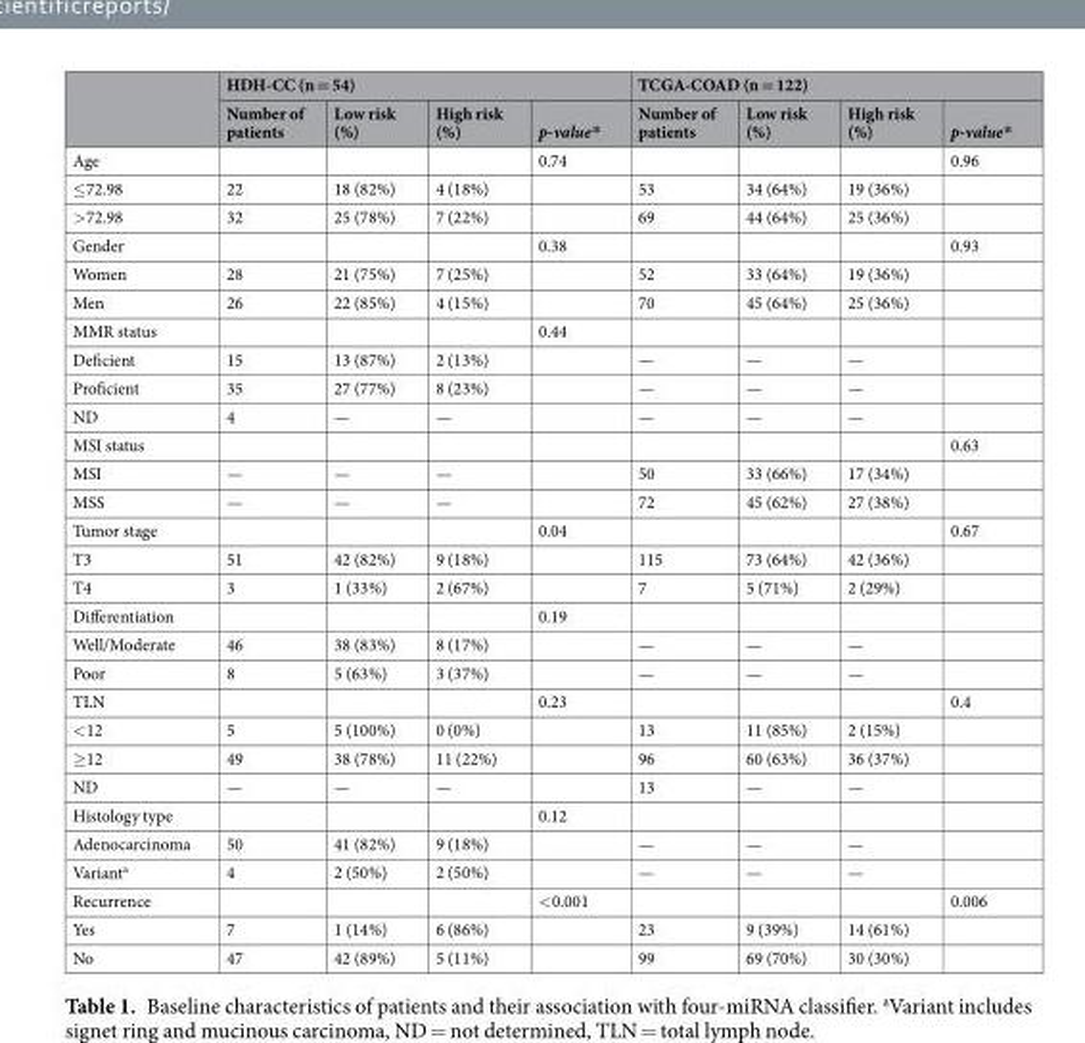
<table><thead><tr><td rowspan="2"></td><td colspan="4">HDH-CC (n = 54)</td><td colspan="4">TCGA-COAD (n = 122)</td></tr><tr><td>Number of patients</td><td>Low risk (%)</td><td>High risk (%)</td><td>p-value*</td><td>Number of patients</td><td>Low risk (%)</td><td>High risk (%)</td><td>p-value*</td></tr></thead><tbody><tr><td>Age</td><td></td><td></td><td></td><td>0.74</td><td></td><td></td><td></td><td>0.96</td></tr><tr><td>≤72.98</td><td>22</td><td>18 (82%)</td><td>4 (18%)</td><td></td><td>53</td><td>34 (64%)</td><td>19 (36%)</td><td></td></tr><tr><td>&gt;72.98</td><td>32</td><td>25 (78%)</td><td>7 (22%)</td><td></td><td>69</td><td>44 (64%)</td><td>25 (36%)</td><td></td></tr><tr><td>Gender</td><td></td><td></td><td></td><td>0.38</td><td></td><td></td><td></td><td>0.93</td></tr><tr><td>Women</td><td>28</td><td>21 (75%)</td><td>7 (25%)</td><td></td><td>52</td><td>33 (64%)</td><td>19 (36%)</td><td></td></tr><tr><td>Men</td><td>26</td><td>22 (85%)</td><td>4 (15%)</td><td></td><td>70</td><td>45 (64%)</td><td>25 (36%)</td><td></td></tr><tr><td>MMR status</td><td></td><td></td><td></td><td>0.44</td><td></td><td></td><td></td><td></td></tr><tr><td>Deficient</td><td>15</td><td>13 (87%)</td><td>2 (13%)</td><td></td><td>—</td><td>—</td><td>—</td><td></td></tr><tr><td>Proficient</td><td>35</td><td>27 (77%)</td><td>8 (23%)</td><td></td><td>—</td><td>—</td><td>—</td><td></td></tr><tr><td>ND</td><td>4</td><td>—</td><td>—</td><td></td><td>—</td><td>—</td><td>—</td><td></td></tr><tr><td>MSI status</td><td></td><td></td><td></td><td></td><td></td><td></td><td></td><td>0.63</td></tr><tr><td>MSI</td><td>—</td><td>—</td><td>—</td><td></td><td>50</td><td>33 (66%)</td><td>17 (34%)</td><td></td></tr><tr><td>MSS</td><td>—</td><td>—</td><td>—</td><td></td><td>72</td><td>45 (62%)</td><td>27 (38%)</td><td></td></tr><tr><td>Tumor stage</td><td></td><td></td><td></td><td>0.04</td><td></td><td></td><td></td><td>0.67</td></tr><tr><td>T3</td><td>51</td><td>42 (82%)</td><td>9 (18%)</td><td></td><td>115</td><td>73 (64%)</td><td>42 (36%)</td><td></td></tr><tr><td>T4</td><td>3</td><td>1 (33%)</td><td>2 (67%)</td><td></td><td>7</td><td>5 (71%)</td><td>2 (29%)</td><td></td></tr><tr><td>Differentiation</td><td></td><td></td><td></td><td>0.19</td><td></td><td></td><td></td><td></td></tr><tr><td>Well/Moderate</td><td>46</td><td>38 (83%)</td><td>8 (17%)</td><td></td><td>—</td><td>—</td><td>—</td><td></td></tr><tr><td>Poor</td><td>8</td><td>5 (63%)</td><td>3 (37%)</td><td></td><td>—</td><td>—</td><td>—</td><td></td></tr><tr><td>TLN</td><td></td><td></td><td></td><td>0.23</td><td></td><td></td><td></td><td>0.4</td></tr><tr><td>&lt;12</td><td>5</td><td>5 (100%)</td><td>0 (0%)</td><td></td><td>13</td><td>11 (85%)</td><td>2 (15%)</td><td></td></tr><tr><td>≥12</td><td>49</td><td>38 (78%)</td><td>11 (22%)</td><td></td><td>96</td><td>60 (63%)</td><td>36 (37%)</td><td></td></tr><tr><td>ND</td><td>—</td><td>—</td><td>—</td><td></td><td>13</td><td>—</td><td>—</td><td></td></tr><tr><td>Histology type</td><td></td><td></td><td></td><td>0.12</td><td></td><td></td><td></td><td></td></tr><tr><td>Adenocarcinoma</td><td>50</td><td>41 (82%)</td><td>9 (18%)</td><td></td><td>—</td><td>—</td><td>—</td><td></td></tr><tr><td>Variant<sup>a</sup></td><td>4</td><td>2 (50%)</td><td>2 (50%)</td><td></td><td>—</td><td>—</td><td>—</td><td></td></tr><tr><td>Recurrence</td><td></td><td></td><td></td><td>&lt;0.001</td><td></td><td></td><td></td><td>0.006</td></tr><tr><td>Yes</td><td>7</td><td>1 (14%)</td><td>6 (86%)</td><td></td><td>23</td><td>9 (39%)</td><td>14 (61%)</td><td></td></tr><tr><td>No</td><td>47</td><td>42 (89%)</td><td>5 (11%)</td><td></td><td>99</td><td>69 (70%)</td><td>30 (30%)</td><td></td></tr></tbody></table>